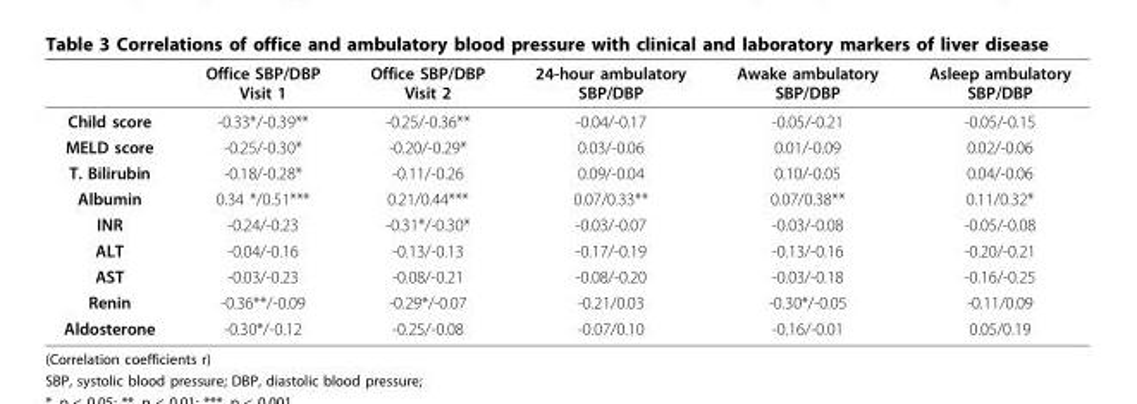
<table><thead><tr><td></td><td>Office SBP/DBP Visit 1</td><td>Office SBP/DBP Visit 2</td><td>24-hour ambulatory SBP/DBP</td><td>Awake ambulatory SBP/DBP</td><td>Asleep ambulatory SBP/DBP</td></tr></thead><tbody><tr><td>Child score</td><td>-0.33*/-0.39**</td><td>-0.25/-0.36**</td><td>-0.04/-0.17</td><td>-0.05/-0.21</td><td>-0.05/-0.15</td></tr><tr><td>MELD score</td><td>-0.25/-0.30*</td><td>-0.20/-0.29*</td><td>0.03/-0.06</td><td>0.01/-0.09</td><td>0.02/-0.06</td></tr><tr><td>T. Bilirubin</td><td>-0.18/-0.28*</td><td>-0.11/-0.26</td><td>0.09/-0.04</td><td>0.10/-0.05</td><td>0.04/-0.06</td></tr><tr><td>Albumin</td><td>0.34 */0.51***</td><td>0.21/0.44***</td><td>0.07/0.33**</td><td>0.07/0.38**</td><td>0.11/0.32*</td></tr><tr><td>INR</td><td>-0.24/-0.23</td><td>-0.31*/-0.30*</td><td>-0.03/-0.07</td><td>-0.03/-0.08</td><td>-0.05/-0.08</td></tr><tr><td>ALT</td><td>-0.04/-0.16</td><td>-0.13/-0.13</td><td>-0.17/-0.19</td><td>-0.13/-0.16</td><td>-0.20/-0.21</td></tr><tr><td>AST</td><td>-0.03/-0.23</td><td>-0.08/-0.21</td><td>-0.08/-0.20</td><td>-0.03/-0.18</td><td>-0.16/-0.25</td></tr><tr><td>Renin</td><td>-0.36**/-0.09</td><td>-0.29*/-0.07</td><td>-0.21/0.03</td><td>-0.30*/-0.05</td><td>-0.11/0.09</td></tr><tr><td>Aldosterone</td><td>-0.30*/-0.12</td><td>-0.25/-0.08</td><td>-0.07/0.10</td><td>-0.16/-0.01</td><td>0.05/0.19</td></tr></tbody></table>